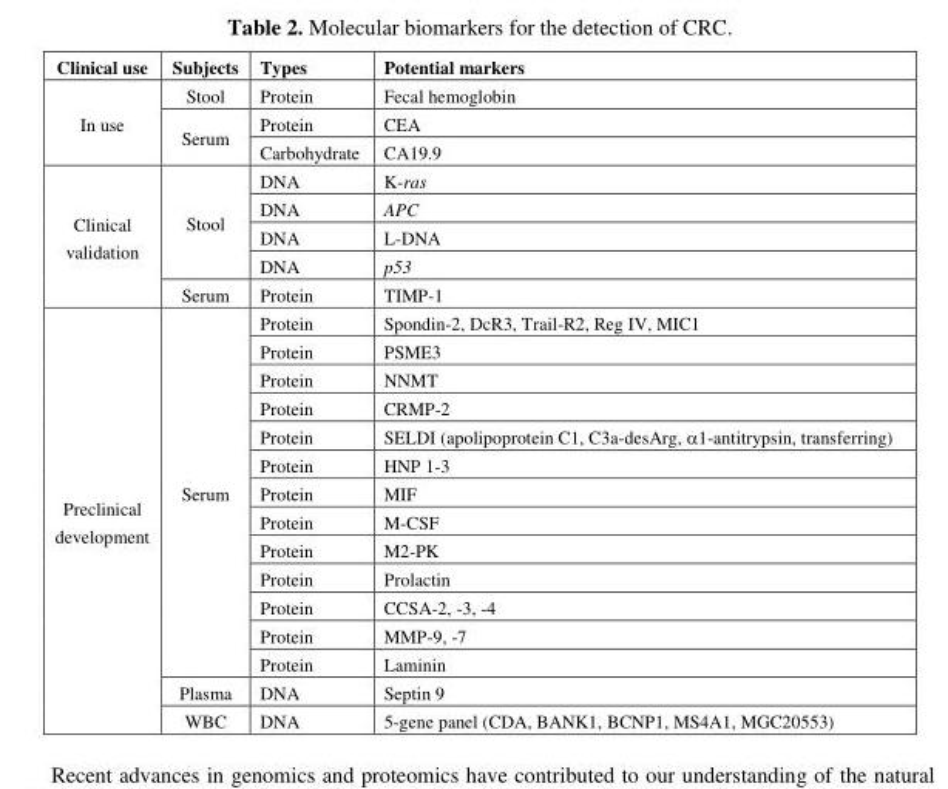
<table><thead><tr><td>Clinical use</td><td>Subjects</td><td>Types</td><td>Potential markers</td></tr></thead><tbody><tr><td rowspan="3">In use</td><td>Stool</td><td>Protein</td><td>Fecal hemoglobin</td></tr><tr><td rowspan="2">Serum</td><td>Protein</td><td>CEA</td></tr><tr><td>Carbohydrate</td><td>CA19.9</td></tr><tr><td rowspan="5">Clinical validation</td><td rowspan="4">Stool</td><td>DNA</td><td>K-ras</td></tr><tr><td>DNA</td><td>APC</td></tr><tr><td>DNA</td><td>L-DNA</td></tr><tr><td>DNA</td><td>p53</td></tr><tr><td>Serum</td><td>Protein</td><td>TIMP-1</td></tr><tr><td rowspan="15">Preclinical development</td><td rowspan="13">Serum</td><td>Protein</td><td>Spondin-2, DcR3, Trail-R2, Reg IV, MIC1</td></tr><tr><td>Protein</td><td>PSME3</td></tr><tr><td>Protein</td><td>NNMT</td></tr><tr><td>Protein</td><td>CRMP-2</td></tr><tr><td>Protein</td><td>SELDI (apolipoprotein C1, C3a-desArg, α1-antitrypsin, transferring)</td></tr><tr><td>Protein</td><td>HNP 1-3</td></tr><tr><td>Protein</td><td>MIF</td></tr><tr><td>Protein</td><td>M-CSF</td></tr><tr><td>Protein</td><td>M2-PK</td></tr><tr><td>Protein</td><td>Prolactin</td></tr><tr><td>Protein</td><td>CCSA-2, -3, -4</td></tr><tr><td>Protein</td><td>MMP-9, -7</td></tr><tr><td>Protein</td><td>Laminin</td></tr><tr><td>Plasma</td><td>DNA</td><td>Septin 9</td></tr><tr><td>WBC</td><td>DNA</td><td>5-gene panel (CDA, BANK1, BCNP1, MS4A1, MGC20553)</td></tr></tbody></table>